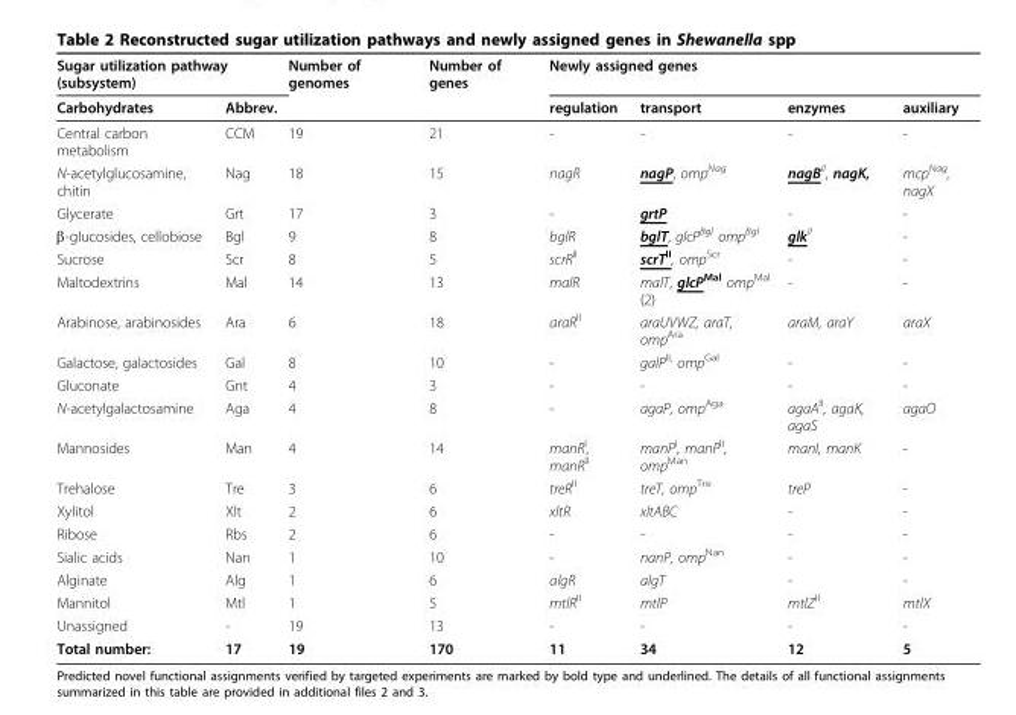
<table><thead><tr><td colspan="2">Sugar utilization pathway (subsystem)</td><td rowspan="2">Number of genomes</td><td rowspan="2">Number of genes</td><td colspan="4">Newly assigned genes</td></tr><tr><td>Carbohydrates</td><td>Abbrev.</td><td>regulation</td><td>transport</td><td>enzymes</td><td>auxiliary</td></tr></thead><tbody><tr><td>Central carbon metabolism</td><td>CCM</td><td>19</td><td>21</td><td>-</td><td>-</td><td>-</td><td>-</td></tr><tr><td>N-acetylglucosamine, chitin</td><td>Nag</td><td>18</td><td>15</td><td>nagR</td><td>nagP, omp<sup>Nag</sup></td><td>nagB<sup>II</sup>, nagK,</td><td>mcp<sup>Nag</sup>, nagX</td></tr><tr><td>Glycerate</td><td>Grt</td><td>17</td><td>3</td><td>-</td><td>grtP</td><td>-</td><td>-</td></tr><tr><td>β-glucosides, cellobiose</td><td>Bgl</td><td>9</td><td>8</td><td>bglR</td><td>bglT, glcP<sup>Bgl</sup> omp<sup>Bgl</sup></td><td>glk<sup>II</sup></td><td>-</td></tr><tr><td>Sucrose</td><td>Scr</td><td>8</td><td>5</td><td>scrR<sup>II</sup></td><td>scrT<sup>II</sup>, omp<sup>Scr</sup></td><td>-</td><td>-</td></tr><tr><td>Maltodextrins</td><td>Mal</td><td>14</td><td>13</td><td>malR</td><td>malT, glcP<sup>Mal</sup> omp<sup>Mal</sup> (2)</td><td>-</td><td>-</td></tr><tr><td>Arabinose, arabinosides</td><td>Ara</td><td>6</td><td>18</td><td>araR<sup>II</sup></td><td>araUVWZ, araT, omp<sup>Ara</sup></td><td>araM, araY</td><td>araX</td></tr><tr><td>Galactose, galactosides</td><td>Gal</td><td>8</td><td>10</td><td>-</td><td>galP<sup>II,</sup> omp<sup>Gal</sup></td><td>-</td><td>-</td></tr><tr><td>Gluconate</td><td>Gnt</td><td>4</td><td>3</td><td>-</td><td>-</td><td>-</td><td>-</td></tr><tr><td>N-acetylgalactosamine</td><td>Aga</td><td>4</td><td>8</td><td>-</td><td>agaP, omp<sup>Aga</sup></td><td>agaA<sup>II</sup>, agaK, agaS</td><td>agaO</td></tr><tr><td>Mannosides</td><td>Man</td><td>4</td><td>14</td><td>manR<sup>I</sup>, manR<sup>II</sup></td><td>manP<sup>I</sup>, manP<sup>II</sup>, omp<sup>Man</sup></td><td>manI, manK</td><td>-</td></tr><tr><td>Trehalose</td><td>Tre</td><td>3</td><td>6</td><td>treR<sup>II</sup></td><td>treT, omp<sup>Tre</sup></td><td>treP</td><td>-</td></tr><tr><td>Xylitol</td><td>Xlt</td><td>2</td><td>6</td><td>xltR</td><td>xltABC</td><td>-</td><td>-</td></tr><tr><td>Ribose</td><td>Rbs</td><td>2</td><td>6</td><td>-</td><td>-</td><td>-</td><td>-</td></tr><tr><td>Sialic acids</td><td>Nan</td><td>1</td><td>10</td><td>-</td><td>nanP, omp<sup>Nan</sup></td><td>-</td><td>-</td></tr><tr><td>Alginate</td><td>Alg</td><td>1</td><td>6</td><td>algR</td><td>algT</td><td>-</td><td>-</td></tr><tr><td>Mannitol</td><td>Mtl</td><td>1</td><td>5</td><td>mtlR<sup>II</sup></td><td>mtlP</td><td>mtlZ<sup>II</sup></td><td>mtlX</td></tr><tr><td>Unassigned</td><td>-</td><td>19</td><td>13</td><td>-</td><td>-</td><td>-</td><td>-</td></tr><tr><td>Total number:</td><td>17</td><td>19</td><td>170</td><td>11</td><td>34</td><td>12</td><td>5</td></tr></tbody></table>